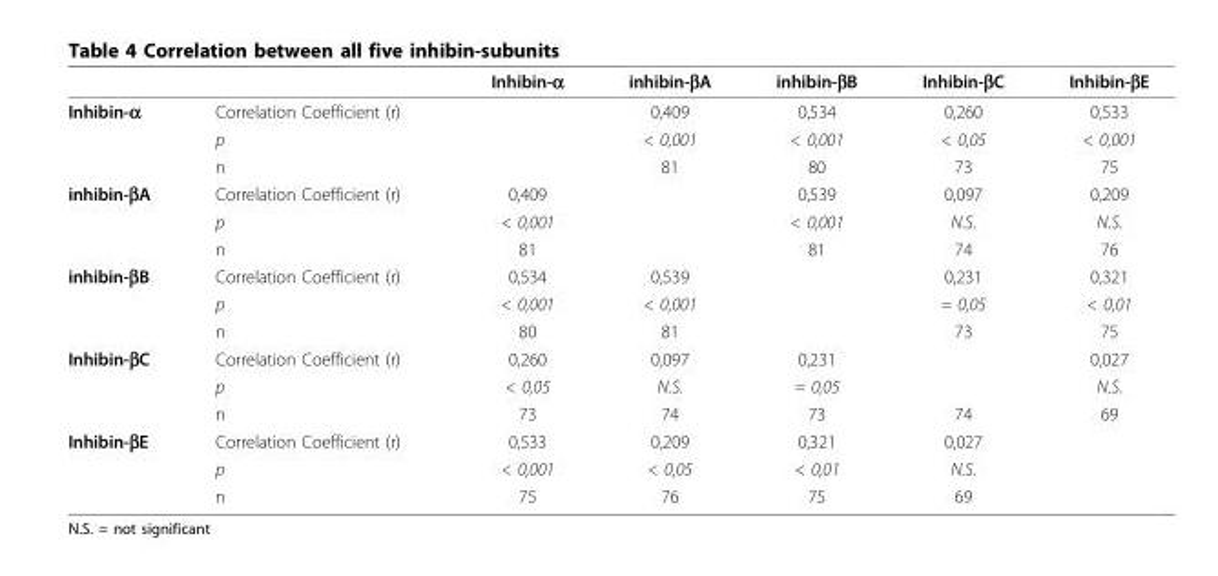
<table><thead><tr><td></td><td></td><td>Inhibin-α</td><td>inhibin-βA</td><td>inhibin-βB</td><td>Inhibin-βC</td><td>Inhibin-βE</td></tr></thead><tbody><tr><td rowspan="3">Inhibin-α</td><td>Correlation Coefficient (r)</td><td></td><td>0,409</td><td>0,534</td><td>0,260</td><td>0,533</td></tr><tr><td>p</td><td></td><td>&lt; 0,001</td><td>&lt; 0,001</td><td>&lt; 0,05</td><td>&lt; 0,001</td></tr><tr><td>n</td><td></td><td>81</td><td>80</td><td>73</td><td>75</td></tr><tr><td rowspan="3">inhibin-βA</td><td>Correlation Coefficient (r)</td><td>0,409</td><td></td><td>0,539</td><td>0,097</td><td>0,209</td></tr><tr><td>p</td><td>&lt; 0,001</td><td></td><td>&lt; 0,001</td><td>N.S.</td><td>N.S.</td></tr><tr><td>n</td><td>81</td><td></td><td>81</td><td>74</td><td>76</td></tr><tr><td rowspan="3">inhibin-βB</td><td>Correlation Coefficient (r)</td><td>0,534</td><td>0,539</td><td></td><td>0,231</td><td>0,321</td></tr><tr><td>p</td><td>&lt; 0,001</td><td>&lt; 0,001</td><td></td><td>= 0,05</td><td>&lt; 0,01</td></tr><tr><td>n</td><td>80</td><td>81</td><td></td><td>73</td><td>75</td></tr><tr><td rowspan="3">Inhibin-βC</td><td>Correlation Coefficient (r)</td><td>0,260</td><td>0,097</td><td>0,231</td><td></td><td>0,027</td></tr><tr><td>p</td><td>&lt; 0,05</td><td>N.S.</td><td>= 0,05</td><td></td><td>N.S.</td></tr><tr><td>n</td><td>73</td><td>74</td><td>73</td><td>74</td><td>69</td></tr><tr><td rowspan="3">Inhibin-βE</td><td>Correlation Coefficient (r)</td><td>0,533</td><td>0,209</td><td>0,321</td><td>0,027</td><td></td></tr><tr><td>p</td><td>&lt; 0,001</td><td>&lt; 0,05</td><td>&lt; 0,01</td><td>N.S.</td><td></td></tr><tr><td>n</td><td>75</td><td>76</td><td>75</td><td>69</td><td></td></tr></tbody></table>